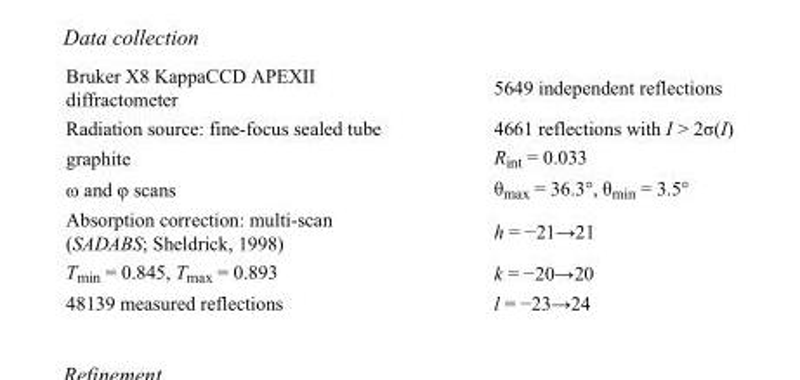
<table><tbody><tr><td>Bruker X8 KappaCCD APEXII diffractometer</td><td>5649 independent reflections</td></tr><tr><td>Radiation source: fine-focus sealed tube</td><td>4661 reflections with I &gt; 2σ(I)</td></tr><tr><td>graphite</td><td>R<sub>int</sub> = 0.033</td></tr><tr><td>ω and φ scans</td><td>θ<sub>max</sub> = 36.3°, θ<sub>min</sub> = 3.5°</td></tr><tr><td>Absorption correction: multi-scan (SADABS; Sheldrick, 1998)</td><td>h = −21→21</td></tr><tr><td>T<sub>min</sub> = 0.845, T<sub>max</sub> = 0.893</td><td>k = −20→20</td></tr><tr><td>48139 measured reflections</td><td>l = −23→24</td></tr></tbody></table>